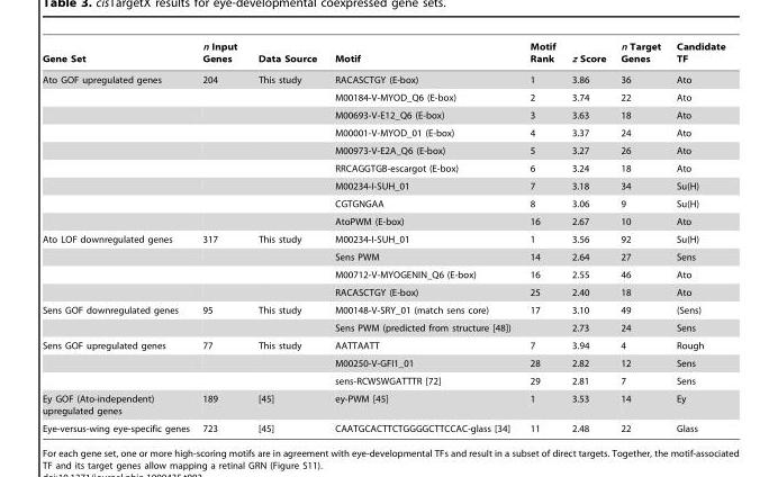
<table><thead><tr><td>Gene Set</td><td>n Input Genes</td><td>Data Source</td><td>Motif</td><td>Motif Rank</td><td>z Score</td><td>n Target Genes</td><td>Candidate TF</td></tr></thead><tbody><tr><td rowspan="9">Ato GOF upregulated genes</td><td>204</td><td>This study</td><td>RACASCTGY (E-box)</td><td>1</td><td>3.86</td><td>36</td><td>Ato</td></tr><tr><td></td><td></td><td>M00184-V-MYOD_Q6 (E-box)</td><td>2</td><td>3.74</td><td>22</td><td>Ato</td></tr><tr><td></td><td></td><td>M00693-V-E12_Q6 (E-box)</td><td>3</td><td>3.63</td><td>18</td><td>Ato</td></tr><tr><td></td><td></td><td>M00001-V-MYOD_01 (E-box)</td><td>4</td><td>3.37</td><td>24</td><td>Ato</td></tr><tr><td></td><td></td><td>M00973-V-E2A_Q6 (E-box)</td><td>5</td><td>3.27</td><td>26</td><td>Ato</td></tr><tr><td></td><td></td><td>RRCAGGTGB-escargot (E-box)</td><td>6</td><td>3.24</td><td>18</td><td>Ato</td></tr><tr><td></td><td></td><td>M00234-I-SUH_01</td><td>7</td><td>3.18</td><td>34</td><td>Su(H)</td></tr><tr><td></td><td></td><td>CGTGNGAA</td><td>8</td><td>3.06</td><td>9</td><td>Su(H)</td></tr><tr><td></td><td></td><td>AtoPWM (E-box)</td><td>16</td><td>2.67</td><td>10</td><td>Ato</td></tr><tr><td rowspan="4">Ato LOF downregulated genes</td><td>317</td><td>This study</td><td>M00234-I-SUH_01</td><td>1</td><td>3.56</td><td>92</td><td>Su(H)</td></tr><tr><td></td><td></td><td>Sens PWM</td><td>14</td><td>2.64</td><td>27</td><td>Sens</td></tr><tr><td></td><td></td><td>M00712-V-MYOGENIN_Q6 (E-box)</td><td>16</td><td>2.55</td><td>46</td><td>Ato</td></tr><tr><td></td><td></td><td>RACASCTGY (E-box)</td><td>25</td><td>2.40</td><td>18</td><td>Ato</td></tr><tr><td rowspan="2">Sens GOF downregulated genes</td><td>95</td><td>This study</td><td>M00148-V-SRY_01 (match sens core)</td><td>17</td><td>3.10</td><td>49</td><td>(Sens)</td></tr><tr><td></td><td></td><td>Sens PWM (predicted from structure [48])</td><td></td><td>2.73</td><td>24</td><td>Sens</td></tr><tr><td rowspan="3">Sens GOF upregulated genes</td><td>77</td><td>This study</td><td>AATTAATT</td><td>7</td><td>3.94</td><td>4</td><td>Rough</td></tr><tr><td></td><td></td><td>M00250-V-GFI1_01</td><td>28</td><td>2.82</td><td>12</td><td>Sens</td></tr><tr><td></td><td></td><td>sens-RCWSWGATTTR [72]</td><td>29</td><td>2.81</td><td>7</td><td>Sens</td></tr><tr><td>Ey GOF (Ato-independent) upregulated genes</td><td>189</td><td>[45]</td><td>ey-PWM [45]</td><td>1</td><td>3.53</td><td>14</td><td>Ey</td></tr><tr><td>Eye-versus-wing eye-specific genes</td><td>723</td><td>[45]</td><td>CAATGCACTTCTGGGGCTTCCAC-glass [34]</td><td>11</td><td>2.48</td><td>22</td><td>Glass</td></tr></tbody></table>